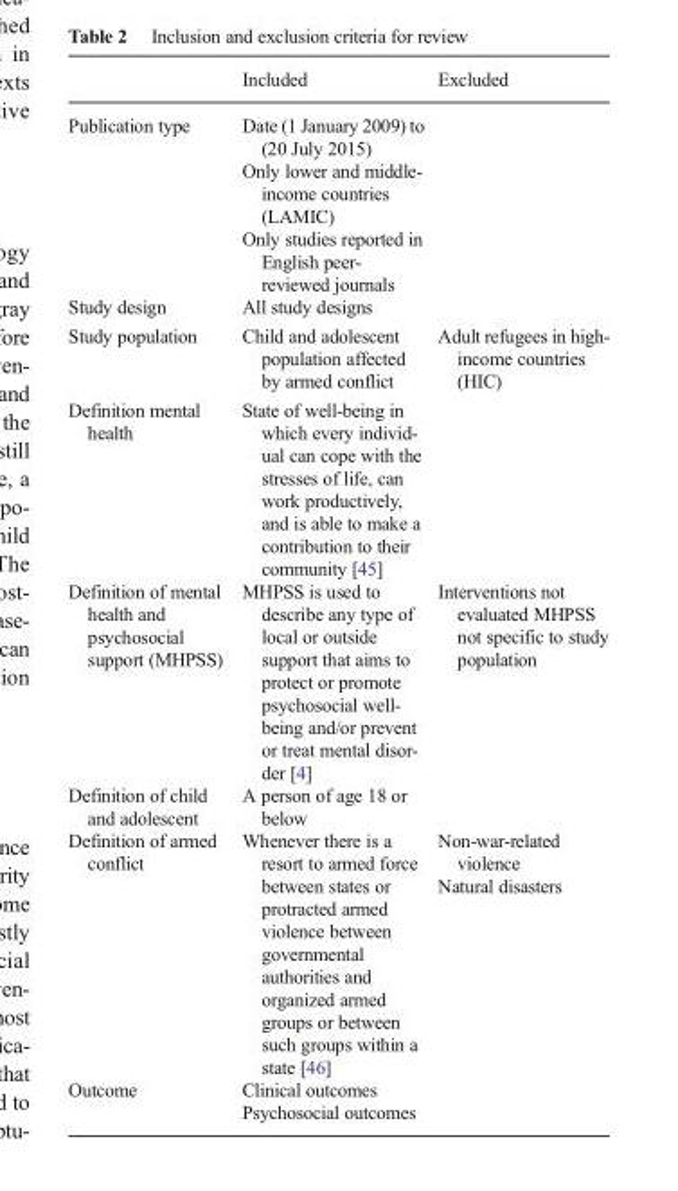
<table><thead><tr><td></td><td>Included</td><td>Excluded</td></tr></thead><tbody><tr><td>Publication type</td><td>Date (1 January 2009) to (20 July 2015) Only lower and middle- income countries (LAMIC) Only studies reported in English peer- reviewed journals</td><td></td></tr><tr><td>Study design</td><td>All study designs</td><td></td></tr><tr><td>Study population</td><td>Child and adolescent population affected by armed conflict</td><td>Adult refugees in high- income countries (HIC)</td></tr><tr><td>Definition mental health</td><td>State of well-being in which every individ- ual can cope with the stresses of life, can work productively, and is able to make a contribution to their community [45]</td><td></td></tr><tr><td>Definition of mental health and psychosocial support (MHPSS)</td><td>MHPSS is used to describe any type of local or outside support that aims to protect or promote psychosocial well- being and/or prevent or treat mental disor- der [4]</td><td>Interventions not evaluated MHPSS not specific to study population</td></tr><tr><td>Definition of child and adolescent</td><td>A person of age 18 or below</td><td></td></tr><tr><td>Definition of armed conflict</td><td>Whenever there is a resort to armed force between states or protracted armed violence between governmental authorities and organized armed groups or between such groups within a state [46]</td><td>Non-war-related violence Natural disasters</td></tr><tr><td>Outcome</td><td>Clinical outcomes Psychosocial outcomes</td><td></td></tr></tbody></table>